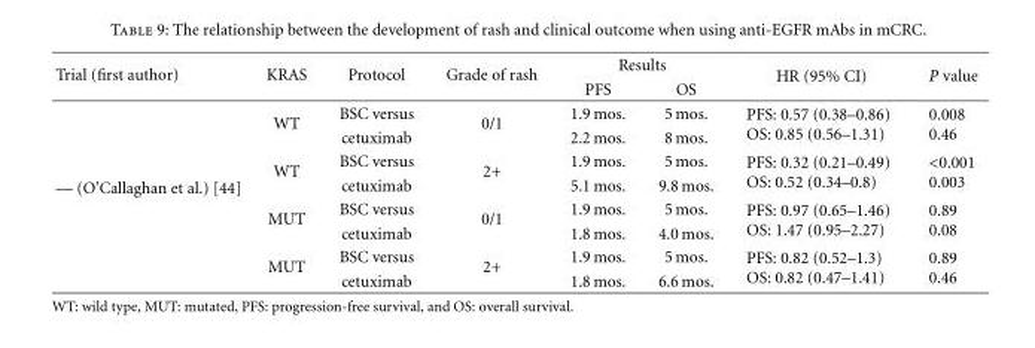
<table><thead><tr><td rowspan="2">Trial (first author)</td><td rowspan="2">KRAS</td><td rowspan="2">Protocol</td><td rowspan="2">Grade of rash</td><td colspan="2">Results</td><td rowspan="2">HR (95% CI)</td><td rowspan="2">P value</td></tr><tr><td>PFS</td><td>OS</td></tr></thead><tbody><tr><td rowspan="8">— (O’Callaghan et al.) [44]</td><td rowspan="2">WT</td><td>BSC versus</td><td rowspan="2">0/1</td><td>1.9 mos.</td><td>5 mos.</td><td rowspan="2">PFS: 0.57 (0.38–0.86) OS: 0.85 (0.56–1.31)</td><td rowspan="2">0.008 0.46</td></tr><tr><td>cetuximab</td><td>2.2 mos.</td><td>8 mos.</td></tr><tr><td rowspan="2">WT</td><td>BSC versus</td><td rowspan="2">2+</td><td>1.9 mos.</td><td>5 mos.</td><td rowspan="2">PFS: 0.32 (0.21–0.49) OS: 0.52 (0.34–0.8)</td><td rowspan="2">&lt;0.001 0.003</td></tr><tr><td>cetuximab</td><td>5.1 mos.</td><td>9.8 mos.</td></tr><tr><td rowspan="2">MUT</td><td>BSC versus</td><td rowspan="2">0/1</td><td>1.9 mos.</td><td>5 mos.</td><td rowspan="2">PFS: 0.97 (0.65–1.46) OS: 1.47 (0.95–2.27)</td><td rowspan="2">0.89 0.08</td></tr><tr><td>cetuximab</td><td>1.8 mos.</td><td>4.0 mos.</td></tr><tr><td rowspan="2">MUT</td><td>BSC versus</td><td rowspan="2">2+</td><td>1.9 mos.</td><td>5 mos.</td><td rowspan="2">PFS: 0.82 (0.52–1.3) OS: 0.82 (0.47–1.41)</td><td rowspan="2">0.89 0.46</td></tr><tr><td>cetuximab</td><td>1.8 mos.</td><td>6.6 mos.</td></tr></tbody></table>